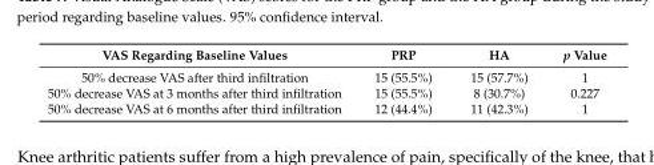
<table><thead><tr><td>VAS Regarding Baseline Values</td><td>PRP</td><td>HA</td><td>p Value</td></tr></thead><tbody><tr><td>50% decrease VAS after third infiltration</td><td>15 (55.5%)</td><td>15 (57.7%)</td><td>1</td></tr><tr><td>50% decrease VAS at 3 months after third infiltration</td><td>15 (55.5%)</td><td>8 (30.7%)</td><td>0.227</td></tr><tr><td>50% decrease VAS at 6 months after third infiltration</td><td>12 (44.4%)</td><td>11 (42.3%)</td><td>1</td></tr></tbody></table>